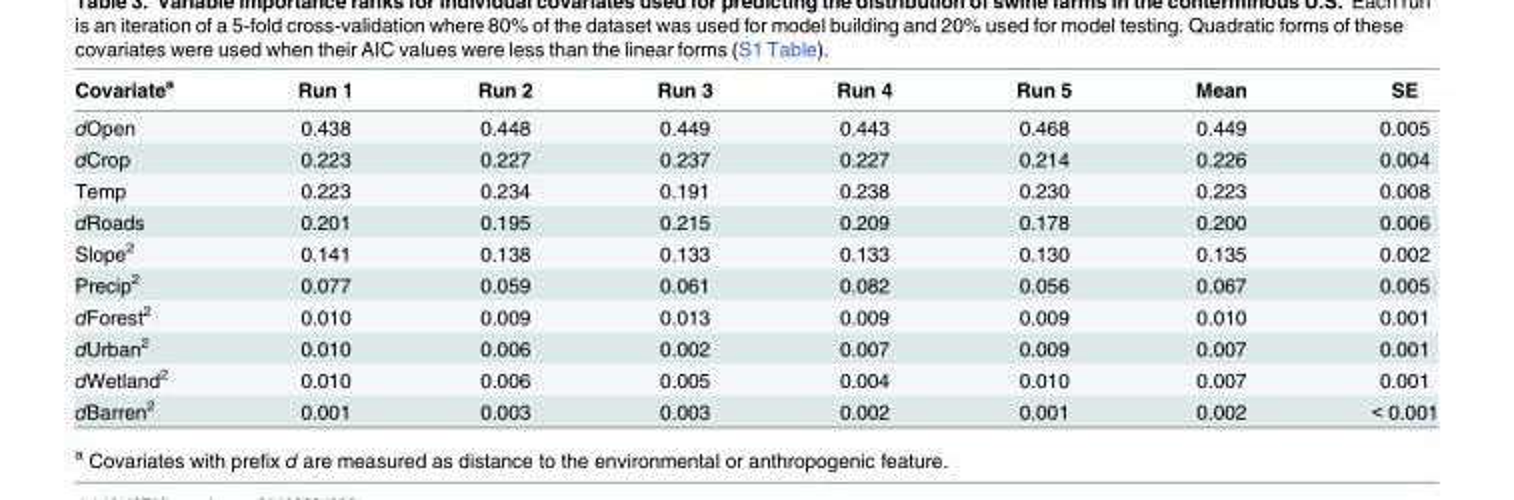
<table><thead><tr><td>Covariate<sup>a</sup></td><td>Run 1</td><td>Run 2</td><td>Run 3</td><td>Run 4</td><td>Run 5</td><td>Mean</td><td>SE</td></tr></thead><tbody><tr><td>dOpen</td><td>0.438</td><td>0.448</td><td>0.449</td><td>0.443</td><td>0.468</td><td>0.449</td><td>0.005</td></tr><tr><td>dCrop</td><td>0.223</td><td>0.227</td><td>0.237</td><td>0.227</td><td>0.214</td><td>0.226</td><td>0.004</td></tr><tr><td>Temp</td><td>0.223</td><td>0.234</td><td>0.191</td><td>0.238</td><td>0.230</td><td>0.223</td><td>0.008</td></tr><tr><td>dRoads</td><td>0.201</td><td>0.195</td><td>0.215</td><td>0.209</td><td>0.178</td><td>0.200</td><td>0.006</td></tr><tr><td>Slope<sup>2</sup></td><td>0.141</td><td>0.138</td><td>0.133</td><td>0.133</td><td>0.130</td><td>0.135</td><td>0.002</td></tr><tr><td>Precip<sup>2</sup></td><td>0.077</td><td>0.059</td><td>0.061</td><td>0.082</td><td>0.056</td><td>0.067</td><td>0.005</td></tr><tr><td>dForest<sup>2</sup></td><td>0.010</td><td>0.009</td><td>0.013</td><td>0.009</td><td>0.009</td><td>0.010</td><td>0.001</td></tr><tr><td>dUrban<sup>2</sup></td><td>0.010</td><td>0.006</td><td>0.002</td><td>0.007</td><td>0.009</td><td>0.007</td><td>0.001</td></tr><tr><td>dWetland<sup>2</sup></td><td>0.010</td><td>0.006</td><td>0.005</td><td>0.004</td><td>0.010</td><td>0.007</td><td>0.001</td></tr><tr><td>dBarren<sup>2</sup></td><td>0.001</td><td>0.003</td><td>0.003</td><td>0.002</td><td>0.001</td><td>0.002</td><td>&lt; 0.001</td></tr></tbody></table>